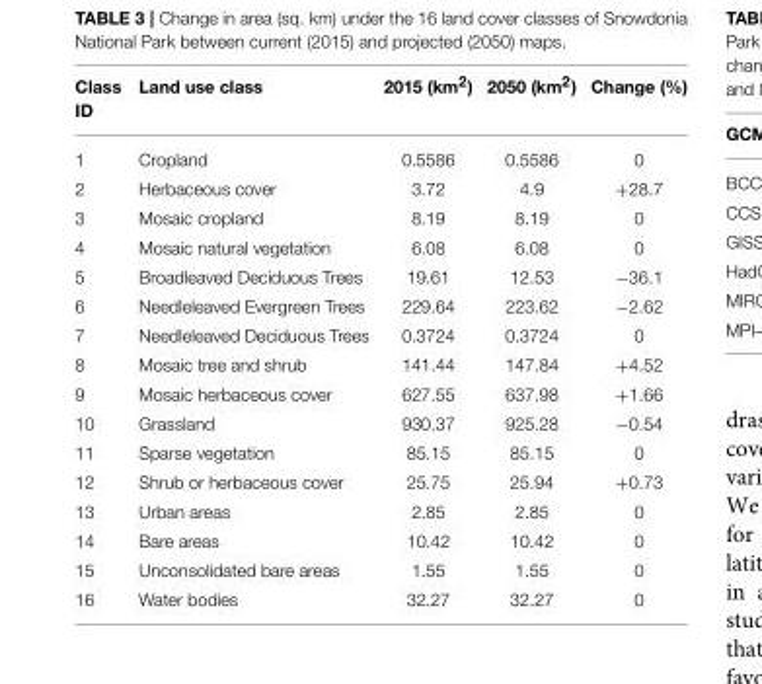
<table><thead><tr><td>Class ID</td><td>Land use class</td><td>2015 (km<sup>2</sup>)</td><td>2050 (km<sup>2</sup>)</td><td>Change (%)</td></tr></thead><tbody><tr><td>1</td><td>Cropland</td><td>0.5586</td><td>0.5586</td><td>0</td></tr><tr><td>2</td><td>Herbaceous cover</td><td>3.72</td><td>4.9</td><td>+28.7</td></tr><tr><td>3</td><td>Mosaic cropland</td><td>8.19</td><td>8.19</td><td>0</td></tr><tr><td>4</td><td>Mosaic natural vegetation</td><td>6.08</td><td>6.08</td><td>0</td></tr><tr><td>5</td><td>Broadleaved Deciduous Trees</td><td>19.61</td><td>12.53</td><td>−36.1</td></tr><tr><td>6</td><td>Needleleaved Evergreen Trees</td><td>229.64</td><td>223.62</td><td>−2.62</td></tr><tr><td>7</td><td>Needleleaved Deciduous Trees</td><td>0.3724</td><td>0.3724</td><td>0</td></tr><tr><td>8</td><td>Mosaic tree and shrub</td><td>141.44</td><td>147.84</td><td>+4.52</td></tr><tr><td>9</td><td>Mosaic herbaceous cover</td><td>627.55</td><td>637.98</td><td>+1.66</td></tr><tr><td>10</td><td>Grassland</td><td>930.37</td><td>925.28</td><td>−0.54</td></tr><tr><td>11</td><td>Sparse vegetation</td><td>85.15</td><td>85.15</td><td>0</td></tr><tr><td>12</td><td>Shrub or herbaceous cover</td><td>25.75</td><td>25.94</td><td>+0.73</td></tr><tr><td>13</td><td>Urban areas</td><td>2.85</td><td>2.85</td><td>0</td></tr><tr><td>14</td><td>Bare areas</td><td>10.42</td><td>10.42</td><td>0</td></tr><tr><td>15</td><td>Unconsolidated bare areas</td><td>1.55</td><td>1.55</td><td>0</td></tr><tr><td>16</td><td>Water bodies</td><td>32.27</td><td>32.27</td><td>0</td></tr></tbody></table>